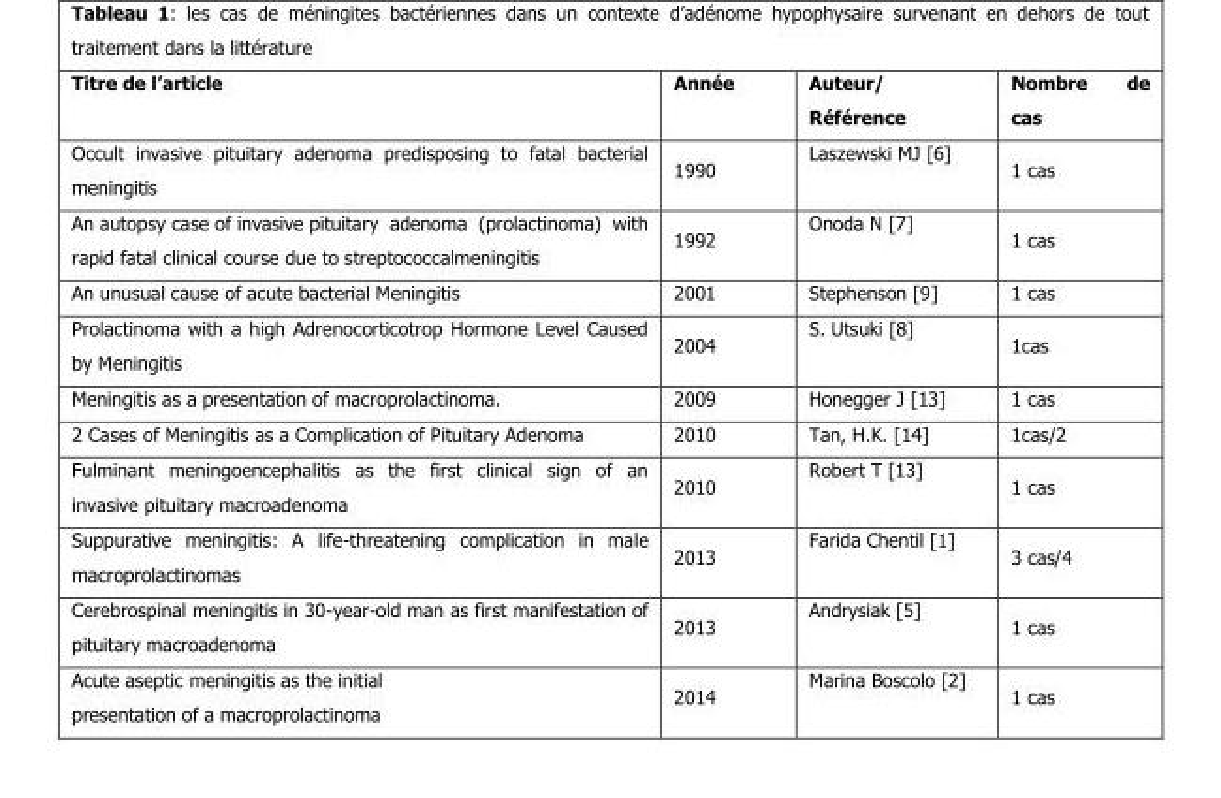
<table><thead><tr><td>Titre de l’article</td><td>Année</td><td>Auteur/ Référence</td><td>Nombre de cas</td></tr></thead><tbody><tr><td>Occult invasive pituitary adenoma predisposing to fatal bacterial meningitis</td><td>1990</td><td>Laszewski MJ [6]</td><td>1 cas</td></tr><tr><td>An autopsy case of invasive pituitary adenoma (prolactinoma) with rapid fatal clinical course due to streptococcalmeningitis</td><td>1992</td><td>Onoda N [7]</td><td>1 cas</td></tr><tr><td>An unusual cause of acute bacterial Meningitis</td><td>2001</td><td>Stephenson [9]</td><td>1 cas</td></tr><tr><td>Prolactinoma with a high Adrenocorticotrop Hormone Level Caused by Meningitis</td><td>2004</td><td>S. Utsuki [8]</td><td>1cas</td></tr><tr><td>Meningitis as a presentation of macroprolactinoma.</td><td>2009</td><td>Honegger J [13]</td><td>1 cas</td></tr><tr><td>2 Cases of Meningitis as a Complication of Pituitary Adenoma</td><td>2010</td><td>Tan, H.K. [14]</td><td>1cas/2</td></tr><tr><td>Fulminant meningoencephalitis as the first clinical sign of an invasive pituitary macroadenoma</td><td>2010</td><td>Robert T [13]</td><td>1 cas</td></tr><tr><td>Suppurative meningitis: A life-threatening complication in male macroprolactinomas</td><td>2013</td><td>Farida Chentil [1]</td><td>3 cas/4</td></tr><tr><td>Cerebrospinal meningitis in 30-year-old man as first manifestation of pituitary macroadenoma</td><td>2013</td><td>Andrysiak [5]</td><td>1 cas</td></tr><tr><td>Acute aseptic meningitis as the initial presentation of a macroprolactinoma</td><td>2014</td><td>Marina Boscolo [2]</td><td>1 cas</td></tr></tbody></table>